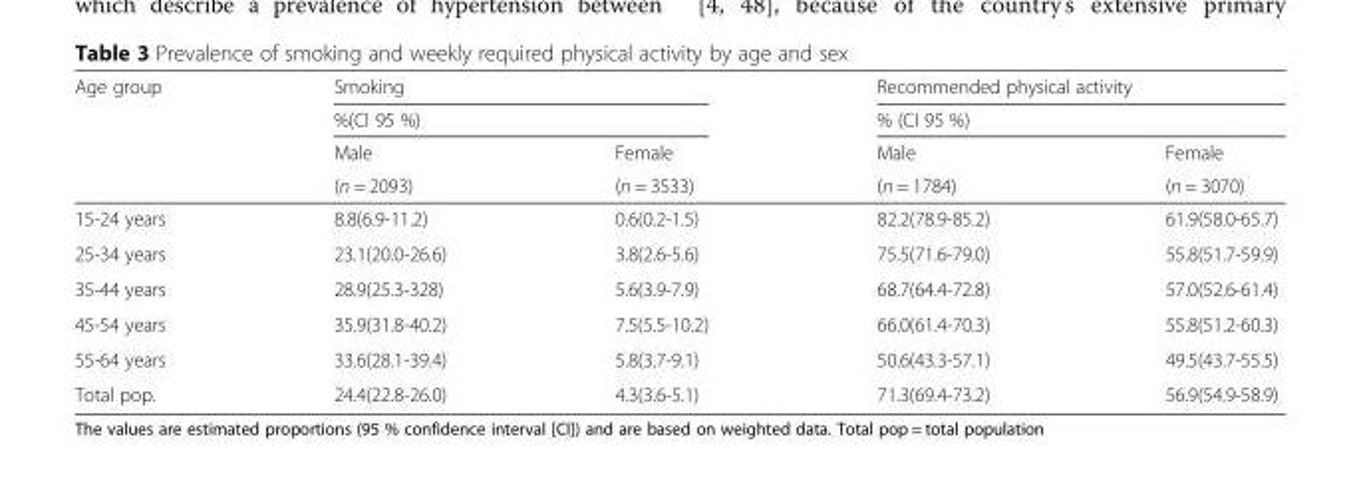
<table><thead><tr><td rowspan="4">Age group</td><td rowspan="2" colspan="2">Smoking %(CI 95 %)</td><td rowspan="2" colspan="2">Recommended physical activity % (CI 95 %)</td></tr><tr></tr><tr><td rowspan="2">Male (n = 2093)</td><td rowspan="2">Female (n = 3533)</td><td rowspan="2">Male (n = 1784)</td><td rowspan="2">Female (n = 3070)</td></tr><tr></tr></thead><tbody><tr><td>15-24 years</td><td>8.8(6.9-11.2)</td><td>0.6(0.2-1.5)</td><td>82.2(78.9-85.2)</td><td>61.9(58.0-65.7)</td></tr><tr><td>25-34 years</td><td>23.1(20.0-26.6)</td><td>3.8(2.6-5.6)</td><td>75.5(71.6-79.0)</td><td>55.8(51.7-59.9)</td></tr><tr><td>35-44 years</td><td>28.9(25.3-328)</td><td>5.6(3.9-7.9)</td><td>68.7(64.4-72.8)</td><td>57.0(52.6-61.4)</td></tr><tr><td>45-54 years</td><td>35.9(31.8-40.2)</td><td>7.5(5.5-10.2)</td><td>66.0(61.4-70.3)</td><td>55.8(51.2-60.3)</td></tr><tr><td>55-64 years</td><td>33.6(28.1-39.4)</td><td>5.8(3.7-9.1)</td><td>50.6(43.3-57.1)</td><td>49.5(43.7-55.5)</td></tr><tr><td>Total pop.</td><td>24.4(22.8-26.0)</td><td>4.3(3.6-5.1)</td><td>71.3(69.4-73.2)</td><td>56.9(54.9-58.9)</td></tr></tbody></table>